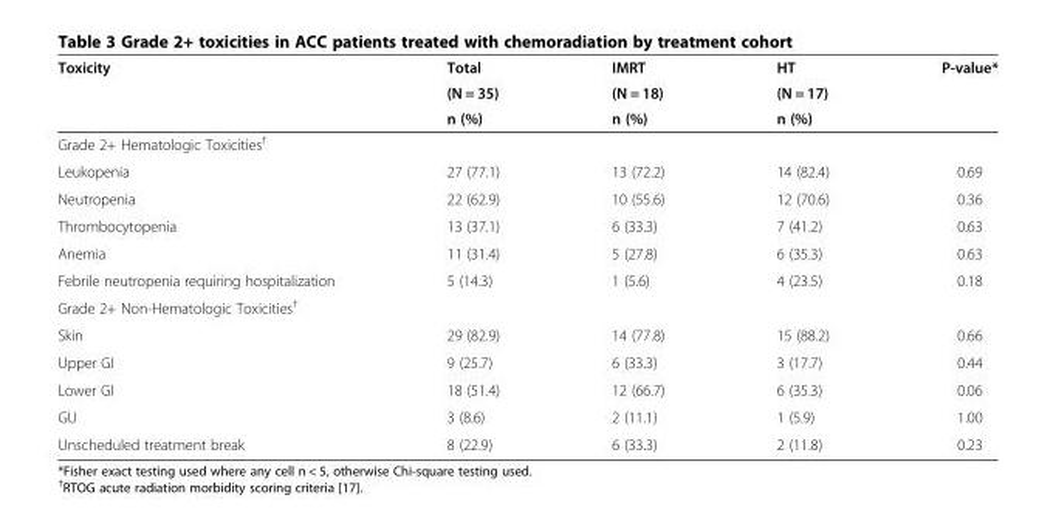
<table><thead><tr><td rowspan="3">Toxicity</td><td rowspan="3">Total (N = 35) n (%)</td><td rowspan="3">IMRT (N = 18) n (%)</td><td rowspan="3">HT (N = 17) n (%)</td><td rowspan="3">P-value*</td></tr><tr></tr><tr></tr></thead><tbody><tr><td colspan="5">Grade 2+ Hematologic Toxicities<sup>†</sup></td></tr><tr><td>Leukopenia</td><td>27 (77.1)</td><td>13 (72.2)</td><td>14 (82.4)</td><td>0.69</td></tr><tr><td>Neutropenia</td><td>22 (62.9)</td><td>10 (55.6)</td><td>12 (70.6)</td><td>0.36</td></tr><tr><td>Thrombocytopenia</td><td>13 (37.1)</td><td>6 (33.3)</td><td>7 (41.2)</td><td>0.63</td></tr><tr><td>Anemia</td><td>11 (31.4)</td><td>5 (27.8)</td><td>6 (35.3)</td><td>0.63</td></tr><tr><td>Febrile neutropenia requiring hospitalization</td><td>5 (14.3)</td><td>1 (5.6)</td><td>4 (23.5)</td><td>0.18</td></tr><tr><td colspan="5">Grade 2+ Non-Hematologic Toxicities<sup>†</sup></td></tr><tr><td>Skin</td><td>29 (82.9)</td><td>14 (77.8)</td><td>15 (88.2)</td><td>0.66</td></tr><tr><td>Upper GI</td><td>9 (25.7)</td><td>6 (33.3)</td><td>3 (17.7)</td><td>0.44</td></tr><tr><td>Lower GI</td><td>18 (51.4)</td><td>12 (66.7)</td><td>6 (35.3)</td><td>0.06</td></tr><tr><td>GU</td><td>3 (8.6)</td><td>2 (11.1)</td><td>1 (5.9)</td><td>1.00</td></tr><tr><td>Unscheduled treatment break</td><td>8 (22.9)</td><td>6 (33.3)</td><td>2 (11.8)</td><td>0.23</td></tr></tbody></table>